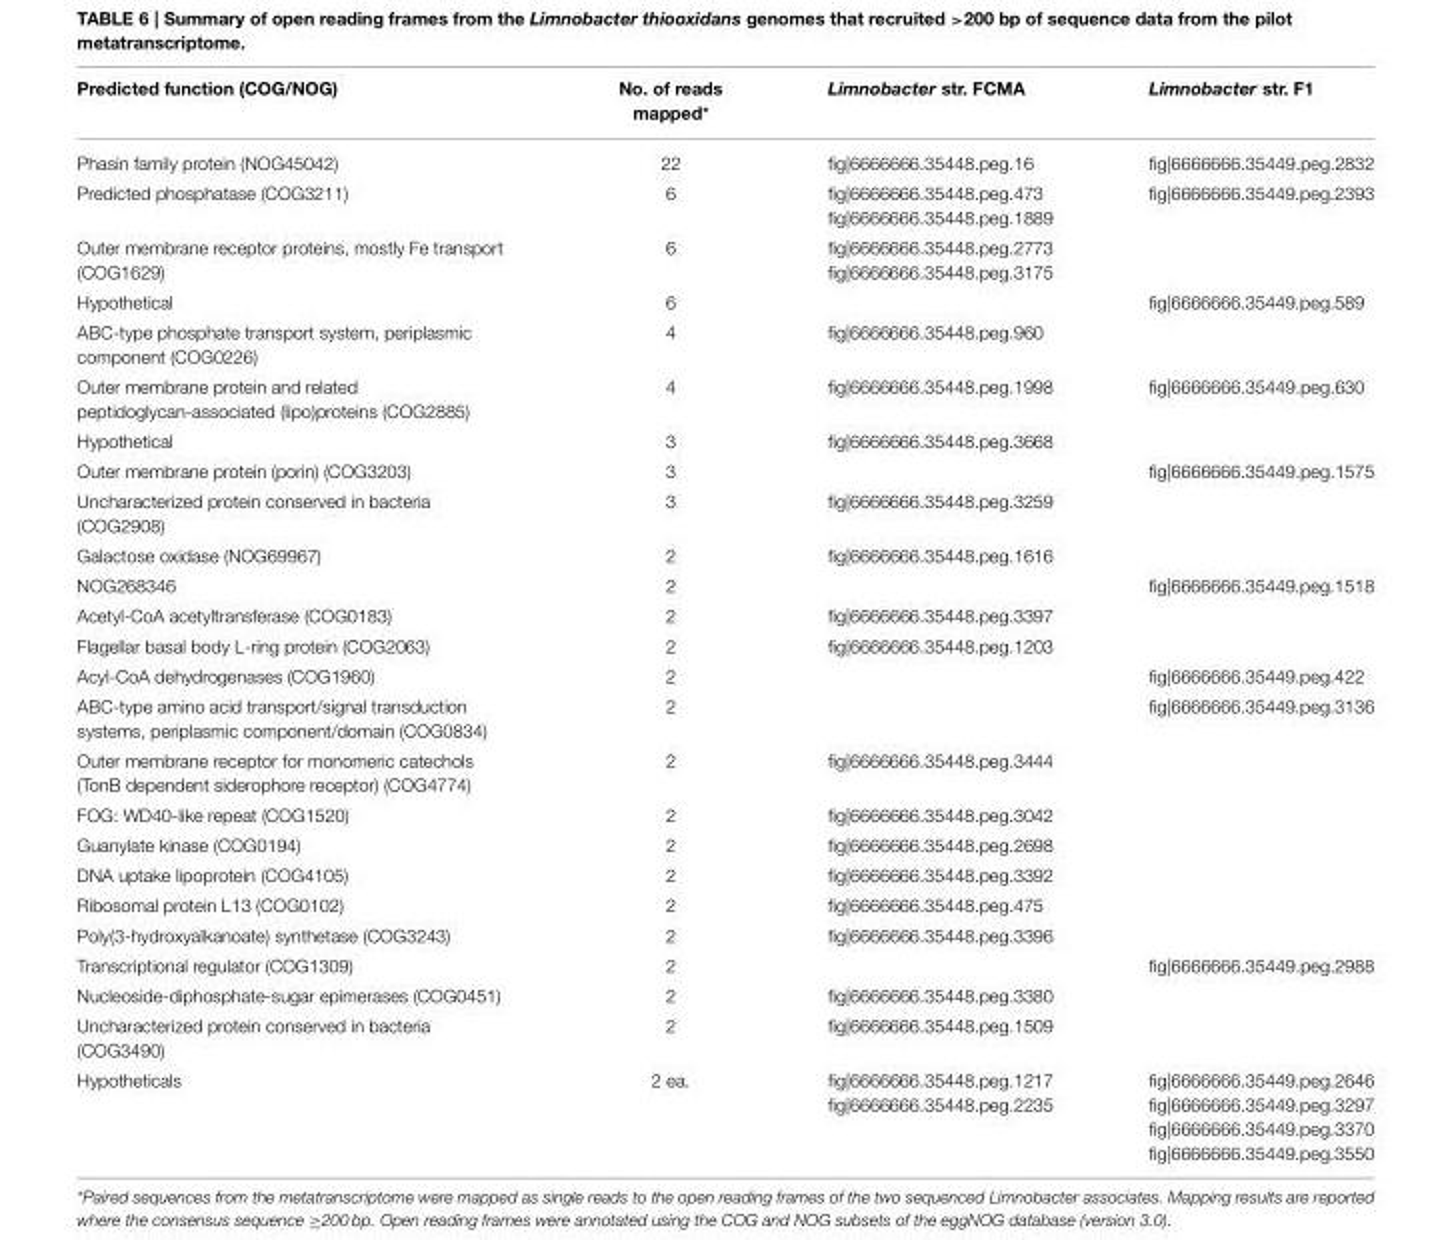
<table><thead><tr><td>Predicted function (COG/NOG)</td><td>No. of reads mapped*</td><td>Limnobacter str. FCMA</td><td>Limnobacter str. F1</td></tr></thead><tbody><tr><td>Phasin family protein (NOG45042)</td><td>22</td><td>fig|6666666.35448.peg.16</td><td>fig|6666666.35449.peg.2832</td></tr><tr><td>Predicted phosphatase (COG3211)</td><td>6</td><td>fig|6666666.35448.peg.473 fig|6666666.35448.peg.1889</td><td>fig|6666666.35449.peg.2393</td></tr><tr><td>Outer membrane receptor proteins, mostly Fe transport (COG1629)</td><td>6</td><td>fig|6666666.35448.peg.2773 fig|6666666.35448.peg.3175</td><td></td></tr><tr><td>Hypothetical</td><td>6</td><td></td><td>fig|6666666.35449.peg.589</td></tr><tr><td>ABC-type phosphate transport system, periplasmic component (COG0226)</td><td>4</td><td>fig|6666666.35448.peg.960</td><td></td></tr><tr><td>Outer membrane protein and related peptidoglycan-associated (lipo)proteins (COG2885)</td><td>4</td><td>fig|6666666.35448.peg.1998</td><td>fig|6666666.35449.peg.630</td></tr><tr><td>Hypothetical</td><td>3</td><td>fig|6666666.35448.peg.3668</td><td></td></tr><tr><td>Outer membrane protein (porin) (COG3203)</td><td>3</td><td></td><td>fig|6666666.35449.peg.1575</td></tr><tr><td>Uncharacterized protein conserved in bacteria (COG2908)</td><td>3</td><td>fig|6666666.35448.peg.3259</td><td></td></tr><tr><td>Galactose oxidase (NOG69967)</td><td>2</td><td>fig|6666666.35448.peg.1616</td><td></td></tr><tr><td>NOG268346</td><td>2</td><td></td><td>fig|6666666.35449.peg.1518</td></tr><tr><td>Acetyl-CoA acetyltransferase (COG0183)</td><td>2</td><td>fig|6666666.35448.peg.3397</td><td></td></tr><tr><td>Flagellar basal body L-ring protein (COG2063)</td><td>2</td><td>fig|6666666.35448.peg.1203</td><td></td></tr><tr><td>Acyl-CoA dehydrogenases (COG1960)</td><td>2</td><td></td><td>fig|6666666.35449.peg.422</td></tr><tr><td>ABC-type amino acid transport/signal transduction systems, periplasmic component/domain (COG0834)</td><td>2</td><td></td><td>fig|6666666.35449.peg.3136</td></tr><tr><td>Outer membrane receptor for monomeric catechols (TonB dependent siderophore receptor) (COG4774)</td><td>2</td><td>fig|6666666.35448.peg.3444</td><td></td></tr><tr><td>FOG: WD40-like repeat (COG1520)</td><td>2</td><td>fig|6666666.35448.peg.3042</td><td></td></tr><tr><td>Guanylate kinase (COG0194)</td><td>2</td><td>fig|6666666.35448.peg.2698</td><td></td></tr><tr><td>DNA uptake lipoprotein (COG4105)</td><td>2</td><td>fig|6666666.35448.peg.3392</td><td></td></tr><tr><td>Ribosomal protein L13 (COG0102)</td><td>2</td><td>fig|6666666.35448.peg.475</td><td></td></tr><tr><td>Poly(3-hydroxyalkanoate) synthetase (COG3243)</td><td>2</td><td>fig|6666666.35448.peg.3396</td><td></td></tr><tr><td>Transcriptional regulator (COG1309)</td><td>2</td><td></td><td>fig|6666666.35449.peg.2988</td></tr><tr><td>Nucleoside-diphosphate-sugar epimerases (COG0451)</td><td>2</td><td>fig|6666666.35448.peg.3380</td><td></td></tr><tr><td>Uncharacterized protein conserved in bacteria (COG3490)</td><td>2</td><td>fig|6666666.35448.peg.1509</td><td></td></tr><tr><td>Hypotheticals</td><td>2 ea.</td><td>fig|6666666.35448.peg.1217 fig|6666666.35448.peg.2235</td><td>fig|6666666.35449.peg.2646 fig|6666666.35449.peg.3297 fig|6666666.35449.peg.3370 fig|6666666.35449.peg.3550</td></tr></tbody></table>